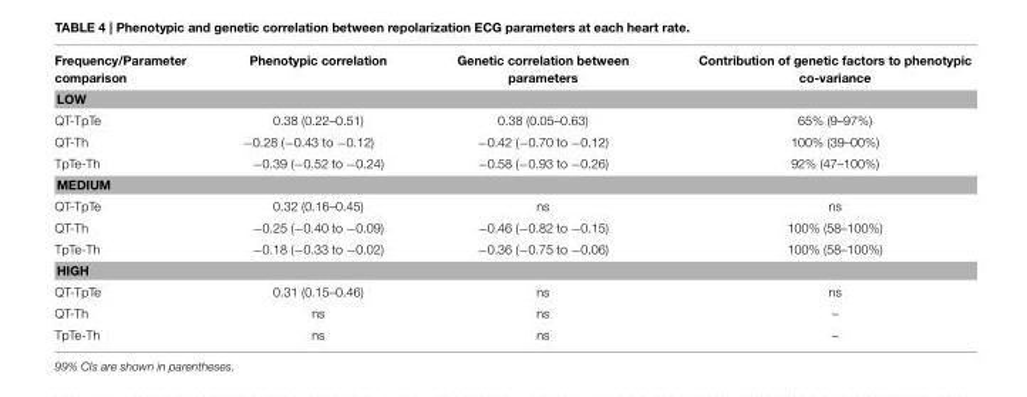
<table><thead><tr><td>Frequency/Parameter comparison</td><td>Phenotypic correlation</td><td>Genetic correlation between parameters</td><td>Contribution of genetic factors to phenotypic co-variance</td></tr></thead><tbody><tr><td colspan="4">LOW</td></tr><tr><td>QT-TpTe</td><td>0.38 (0.22–0.51)</td><td>0.38 (0.05–0.63)</td><td>65% (9–97%)</td></tr><tr><td>QT-Th</td><td>−0.28 (−0.43 to −0.12)</td><td>−0.42 (−0.70 to −0.12)</td><td>100% (39–00%)</td></tr><tr><td>TpTe-Th</td><td>−0.39 (−0.52 to −0.24)</td><td>−0.58 (−0.93 to −0.26)</td><td>92% (47–100%)</td></tr><tr><td colspan="4">MEDIUM</td></tr><tr><td>QT-TpTe</td><td>0.32 (0.16–0.45)</td><td>ns</td><td>ns</td></tr><tr><td>QT-Th</td><td>−0.25 (−0.40 to −0.09)</td><td>−0.46 (−0.82 to −0.15)</td><td>100% (58–100%)</td></tr><tr><td>TpTe-Th</td><td>−0.18 (−0.33 to −0.02)</td><td>−0.36 (−0.75 to −0.06)</td><td>100% (58–100%)</td></tr><tr><td colspan="4">HIGH</td></tr><tr><td>QT-TpTe</td><td>0.31 (0.15–0.46)</td><td>ns</td><td>ns</td></tr><tr><td>QT-Th</td><td>ns</td><td>ns</td><td>–</td></tr><tr><td>TpTe-Th</td><td>ns</td><td>ns</td><td>–</td></tr></tbody></table>